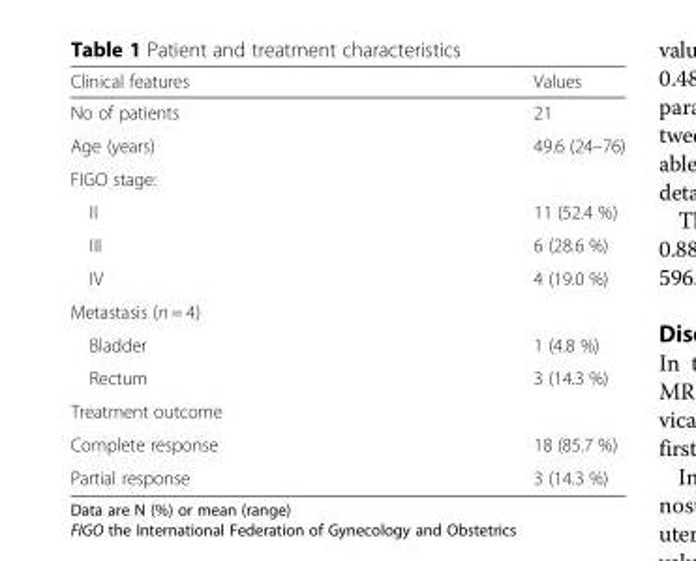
<table><thead><tr><td>Clinical features</td><td>Values</td></tr></thead><tbody><tr><td>No of patients</td><td>21</td></tr><tr><td>Age (years)</td><td>49.6 (24–76)</td></tr><tr><td colspan="2">FIGO stage:</td></tr><tr><td>II</td><td>11 (52.4 %)</td></tr><tr><td>III</td><td>6 (28.6 %)</td></tr><tr><td>IV</td><td rowspan="2">4 (19.0 %)</td></tr><tr><td>Metastasis (n = 4)</td></tr><tr><td>Bladder</td><td>1 (4.8 %)</td></tr><tr><td>Rectum</td><td>3 (14.3 %)</td></tr><tr><td colspan="2">Treatment outcome</td></tr><tr><td>Complete response</td><td>18 (85.7 %)</td></tr><tr><td>Partial response</td><td>3 (14.3 %)</td></tr></tbody></table>